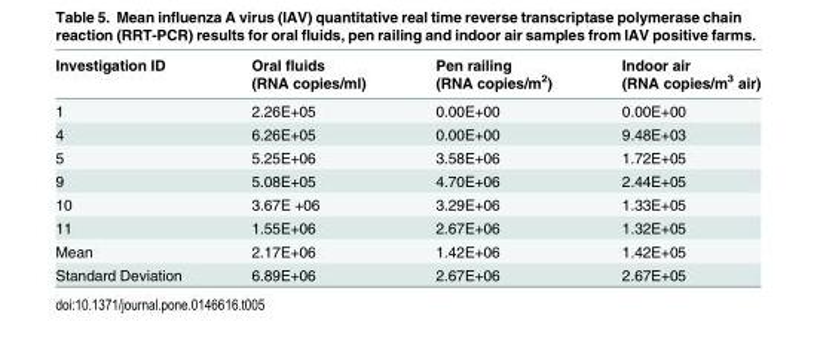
<table><thead><tr><td>Investigation ID</td><td>Oral fluids (RNA copies/ml)</td><td>Pen railing (RNA copies/m<sup>2</sup>)</td><td>Indoor air (RNA copies/m<sup>3</sup> air)</td></tr></thead><tbody><tr><td>1</td><td>2.26E+05</td><td>0.00E+00</td><td>0.00E+00</td></tr><tr><td>4</td><td>6.26E+05</td><td>0.00E+00</td><td>9.48E+03</td></tr><tr><td>5</td><td>5.25E+06</td><td>3.58E+06</td><td>1.72E+05</td></tr><tr><td>9</td><td>5.08E+05</td><td>4.70E+06</td><td>2.44E+05</td></tr><tr><td>10</td><td>3.67E +06</td><td>3.29E+06</td><td>1.33E+05</td></tr><tr><td>11</td><td>1.55E+06</td><td>2.67E+06</td><td>1.32E+05</td></tr><tr><td>Mean</td><td>2.17E+06</td><td>1.42E+06</td><td>1.42E+05</td></tr><tr><td>Standard Deviation</td><td>6.89E+06</td><td>2.67E+06</td><td>2.67E+05</td></tr></tbody></table>